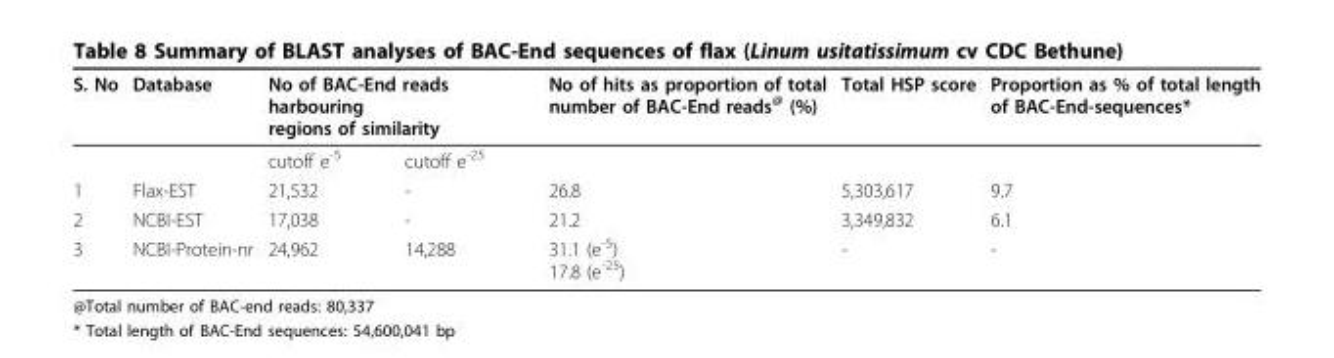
<table><thead><tr><td rowspan="2">S. No</td><td rowspan="2">Database</td><td colspan="2">No of BAC-End reads harbouring regions of similarity</td><td rowspan="2">No of hits as proportion of total number of BAC-End reads<sup>@</sup> (%)</td><td rowspan="2">Total HSP score</td><td rowspan="2">Proportion as % of total length of BAC-End-sequences*</td></tr><tr><td>cutoff e<sup>-5</sup></td><td>cutoff e<sup>-25</sup></td></tr></thead><tbody><tr><td>1</td><td>Flax-EST</td><td>21,532</td><td>-</td><td>26.8</td><td>5,303,617</td><td>9.7</td></tr><tr><td>2</td><td>NCBI-EST</td><td>17,038</td><td>-</td><td>21.2</td><td>3,349,832</td><td>6.1</td></tr><tr><td>3</td><td>NCBI-Protein-nr</td><td>24,962</td><td>14,288</td><td>31.1 (e<sup>-5</sup>) 17.8 (e<sup>-25</sup>)</td><td>-</td><td>-</td></tr></tbody></table>